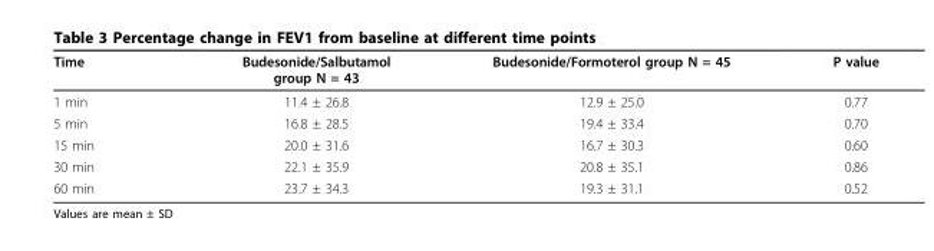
<table><thead><tr><td>Time</td><td>Budesonide/Salbutamol group N = 43</td><td>Budesonide/Formoterol group N = 45</td><td>P value</td></tr></thead><tbody><tr><td>1 min</td><td>11.4 ± 26.8</td><td>12.9 ± 25.0</td><td>0.77</td></tr><tr><td>5 min</td><td>16.8 ± 28.5</td><td>19.4 ± 33.4</td><td>0.70</td></tr><tr><td>15 min</td><td>20.0 ± 31.6</td><td>16.7 ± 30.3</td><td>0.60</td></tr><tr><td>30 min</td><td>22.1 ± 35.9</td><td>20.8 ± 35.1</td><td>0.86</td></tr><tr><td>60 min</td><td>23.7 ± 34.3</td><td>19.3 ± 31.1</td><td>0.52</td></tr></tbody></table>